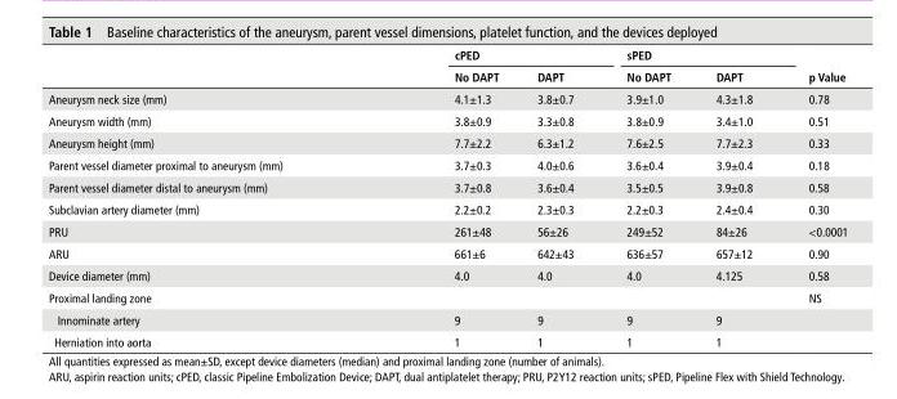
<table><thead><tr><td rowspan="2"></td><td colspan="2">cPed</td><td colspan="2">sPed</td><td rowspan="2">p Value</td></tr><tr><td>no dAPT</td><td>dAPT</td><td>no dAPT</td><td>dAPT</td></tr></thead><tbody><tr><td>Aneurysm neck size (mm)</td><td>4.1±1.3</td><td>3.8±0.7</td><td>3.9±1.0</td><td>4.3±1.8</td><td>0.78</td></tr><tr><td>Aneurysm width (mm)</td><td>3.8±0.9</td><td>3.3±0.8</td><td>3.8±0.9</td><td>3.4±1.0</td><td>0.51</td></tr><tr><td>Aneurysm height (mm)</td><td>7.7±2.2</td><td>6.3±1.2</td><td>7.6±2.5</td><td>7.7±2.3</td><td>0.33</td></tr><tr><td>Parent vessel diameter proximal to aneurysm (mm)</td><td>3.7±0.3</td><td>4.0±0.6</td><td>3.6±0.4</td><td>3.9±0.4</td><td>0.18</td></tr><tr><td>Parent vessel diameter distal to aneurysm (mm)</td><td>3.7±0.8</td><td>3.6±0.4</td><td>3.5±0.5</td><td>3.9±0.8</td><td>0.58</td></tr><tr><td>Subclavian artery diameter (mm)</td><td>2.2±0.2</td><td>2.3±0.3</td><td>2.2±0.3</td><td>2.4±0.4</td><td>0.30</td></tr><tr><td>PRU</td><td>261±48</td><td>56±26</td><td>249±52</td><td>84±26</td><td>&lt;0.0001</td></tr><tr><td>ARU</td><td>661±6</td><td>642±43</td><td>636±57</td><td>657±12</td><td>0.90</td></tr><tr><td>Device diameter (mm)</td><td>4.0</td><td>4.0</td><td>4.0</td><td>4.125</td><td>0.58</td></tr><tr><td>Proximal landing zone</td><td></td><td></td><td></td><td></td><td>NS</td></tr><tr><td>Innominate artery</td><td>9</td><td>9</td><td>9</td><td>9</td><td></td></tr><tr><td>Herniation into aorta</td><td>1</td><td>1</td><td>1</td><td>1</td><td></td></tr></tbody></table>